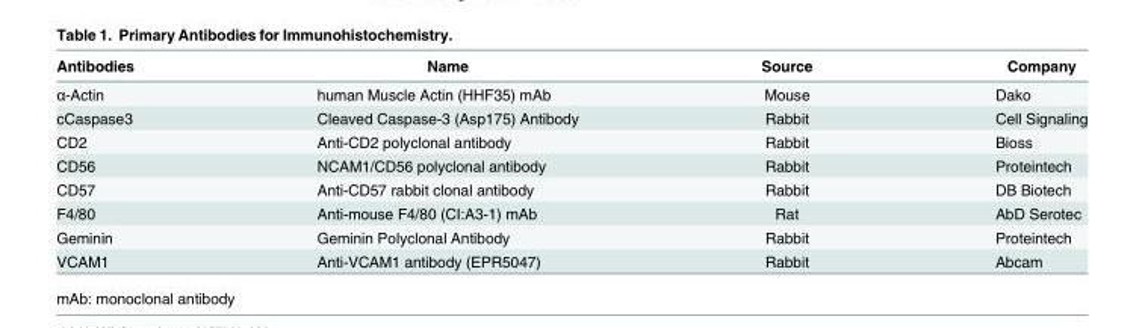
<table><thead><tr><td>Antibodies</td><td>Name</td><td>Source</td><td>Company</td></tr></thead><tbody><tr><td>α-Actin</td><td>human Muscle Actin (HHF35) mAb</td><td>Mouse</td><td>Dako</td></tr><tr><td>cCaspase3</td><td>Cleaved Caspase-3 (Asp175) Antibody</td><td>Rabbit</td><td>Cell Signaling</td></tr><tr><td>CD2</td><td>Anti-CD2 polyclonal antibody</td><td>Rabbit</td><td>Bioss</td></tr><tr><td>CD56</td><td>NCAM1/CD56 polyclonal antibody</td><td>Rabbit</td><td>Proteintech</td></tr><tr><td>CD57</td><td>Anti-CD57 rabbit clonal antibody</td><td>Rabbit</td><td>DB Biotech</td></tr><tr><td>F4/80</td><td>Anti-mouse F4/80 (CI:A3-1) mAb</td><td>Rat</td><td>AbD Serotec</td></tr><tr><td>Geminin</td><td>Geminin Polyclonal Antibody</td><td>Rabbit</td><td>Proteintech</td></tr><tr><td>VCAM1</td><td>Anti-VCAM1 antibody (EPR5047)</td><td>Rabbit</td><td>Abcam</td></tr></tbody></table>